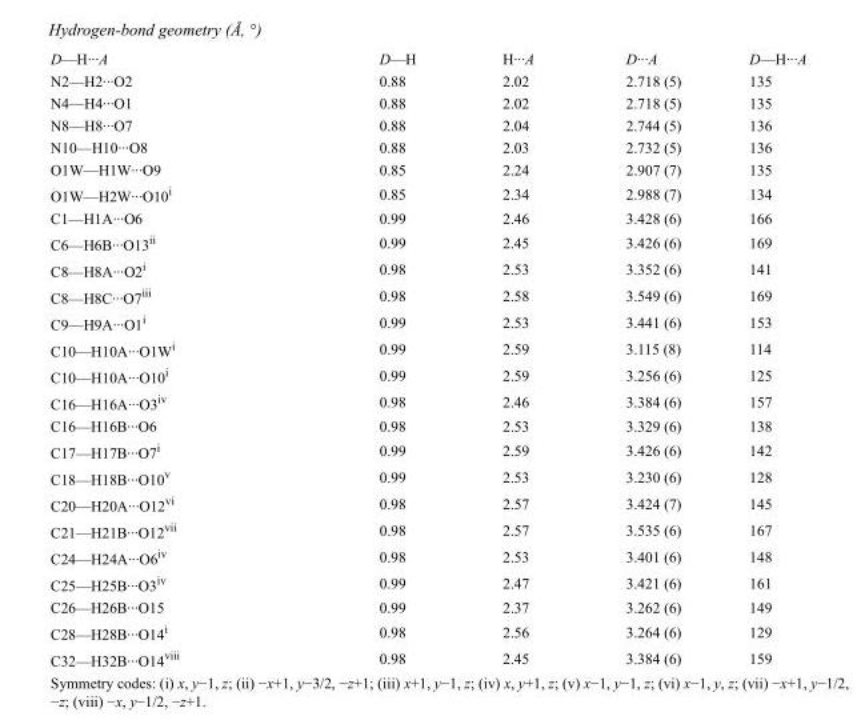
<table><tbody><tr><td>D—H···A</td><td>D—H</td><td>H···A</td><td>D···A</td><td>D—H···A</td></tr><tr><td>N2—H2···O2</td><td>0.88</td><td>2.02</td><td>2.718 (5)</td><td>135</td></tr><tr><td>N4—H4···O1</td><td>0.88</td><td>2.02</td><td>2.718 (5)</td><td>135</td></tr><tr><td>N8—H8···O7</td><td>0.88</td><td>2.04</td><td>2.744 (5)</td><td>136</td></tr><tr><td>N10—H10···O8</td><td>0.88</td><td>2.03</td><td>2.732 (5)</td><td>136</td></tr><tr><td>O1W—H1W···O9</td><td>0.85</td><td>2.24</td><td>2.907 (7)</td><td>135</td></tr><tr><td>O1W—H2W···O10<sup>i</sup></td><td>0.85</td><td>2.34</td><td>2.988 (7)</td><td>134</td></tr><tr><td>C1—H1A···O6</td><td>0.99</td><td>2.46</td><td>3.428 (6)</td><td>166</td></tr><tr><td>C6—H6B···O13<sup>ii</sup></td><td>0.99</td><td>2.45</td><td>3.426 (6)</td><td>169</td></tr><tr><td>C8—H8A···O2<sup>i</sup></td><td>0.98</td><td>2.53</td><td>3.352 (6)</td><td>141</td></tr><tr><td>C8—H8C···O7<sup>iii</sup></td><td>0.98</td><td>2.58</td><td>3.549 (6)</td><td>169</td></tr><tr><td>C9—H9A···O1<sup>i</sup></td><td>0.99</td><td>2.53</td><td>3.441 (6)</td><td>153</td></tr><tr><td>C10—H10A···O1W<sup>i</sup></td><td>0.99</td><td>2.59</td><td>3.115 (8)</td><td>114</td></tr><tr><td>C10—H10A···O10<sup>i</sup></td><td>0.99</td><td>2.59</td><td>3.256 (6)</td><td>125</td></tr><tr><td>C16—H16A···O3<sup>iv</sup></td><td>0.98</td><td>2.46</td><td>3.384 (6)</td><td>157</td></tr><tr><td>C16—H16B···O6</td><td>0.98</td><td>2.53</td><td>3.329 (6)</td><td>138</td></tr><tr><td>C17—H17B···O7<sup>i</sup></td><td>0.99</td><td>2.59</td><td>3.426 (6)</td><td>142</td></tr><tr><td>C18—H18B···O10<sup>v</sup></td><td>0.99</td><td>2.53</td><td>3.230 (6)</td><td>128</td></tr><tr><td>C20—H20A···O12<sup>vi</sup></td><td>0.98</td><td>2.57</td><td>3.424 (7)</td><td>145</td></tr><tr><td>C21—H21B···O12<sup>vii</sup></td><td>0.98</td><td>2.57</td><td>3.535 (6)</td><td>167</td></tr><tr><td>C24—H24A···O6<sup>iv</sup></td><td>0.98</td><td>2.53</td><td>3.401 (6)</td><td>148</td></tr><tr><td>C25—H25B···O3<sup>iv</sup></td><td>0.99</td><td>2.47</td><td>3.421 (6)</td><td>161</td></tr><tr><td>C26—H26B···O15</td><td>0.99</td><td>2.37</td><td>3.262 (6)</td><td>149</td></tr><tr><td>C28—H28B···O14<sup>i</sup></td><td>0.98</td><td>2.56</td><td>3.264 (6)</td><td>129</td></tr><tr><td>C32—H32B···O14<sup>viii</sup></td><td>0.98</td><td>2.45</td><td>3.384 (6)</td><td>159</td></tr></tbody></table>